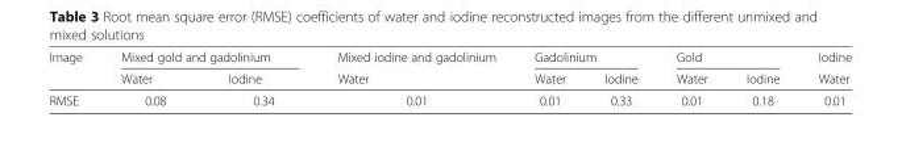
<table><thead><tr><td rowspan="2">Image</td><td colspan="2">Mixed gold and gadolinium</td><td rowspan="2">Mixed iodine and gadolinium Water</td><td colspan="2">Gadolinium</td><td colspan="2">Gold</td><td rowspan="2">Iodine Water</td></tr><tr><td>Water</td><td>Iodine</td><td>Water</td><td>Iodine</td><td>Water</td><td>Iodine</td></tr></thead><tbody><tr><td>RMSE</td><td>0.08</td><td>0.34</td><td>0.01</td><td>0.01</td><td>0.33</td><td>0.01</td><td>0.18</td><td>0.01</td></tr></tbody></table>